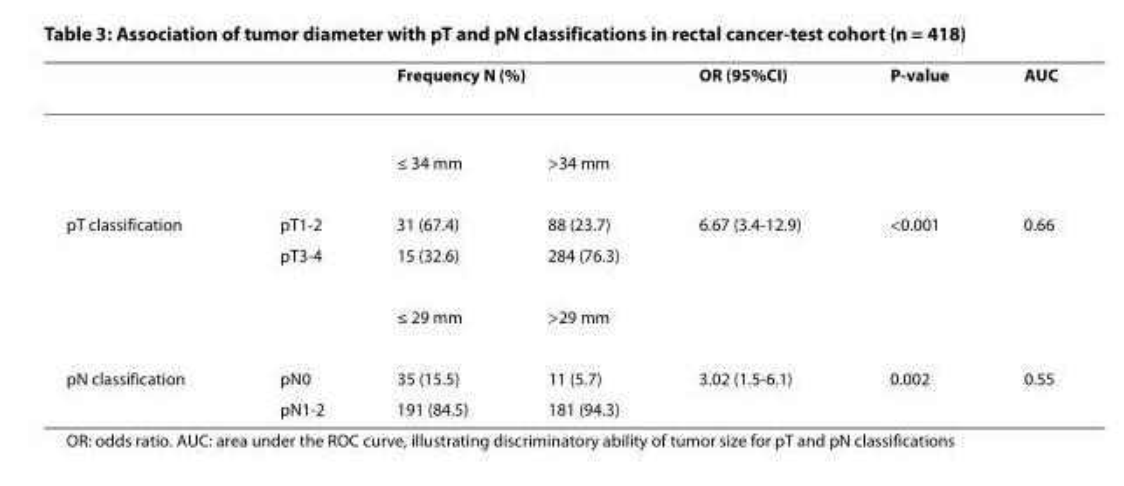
<table><thead><tr><td rowspan="2"></td><td rowspan="2"></td><td colspan="2">Frequency N (%)</td><td rowspan="2">OR (95%CI)</td><td rowspan="2">P-value</td><td rowspan="2">AUC</td></tr><tr><td>≤ 34 mm</td><td>&gt;34 mm</td></tr></thead><tbody><tr><td rowspan="3">pT classification</td><td>pT1-2</td><td>31 (67.4)</td><td>88 (23.7)</td><td>6.67 (3.4-12.9)</td><td>&lt;0.001</td><td>0.66</td></tr><tr><td>pT3-4</td><td>15 (32.6)</td><td>284 (76.3)</td><td></td><td></td><td></td></tr><tr><td></td><td>≤ 29 mm</td><td>&gt;29 mm</td><td></td><td></td><td></td></tr><tr><td rowspan="2">pN classification</td><td>pN0</td><td>35 (15.5)</td><td>11 (5.7)</td><td>3.02 (1.5-6.1)</td><td>0.002</td><td>0.55</td></tr><tr><td>pN1-2</td><td>191 (84.5)</td><td>181 (94.3)</td><td></td><td></td><td></td></tr></tbody></table>